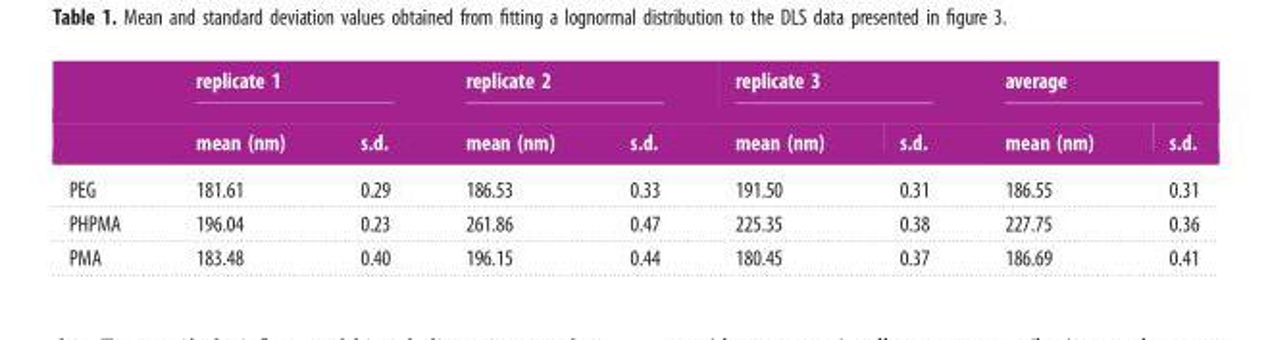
<table><thead><tr><td rowspan="2"></td><td colspan="2">replicate 1</td><td colspan="2">replicate 2</td><td colspan="2">replicate 3</td><td colspan="2">average</td></tr><tr><td>mean (nm)</td><td>s.d.</td><td>mean (nm)</td><td>s.d.</td><td>mean (nm)</td><td>s.d.</td><td>mean (nm)</td><td>s.d.</td></tr></thead><tbody><tr><td>PEG</td><td>181.61</td><td>0.29</td><td>186.53</td><td>0.33</td><td>191.50</td><td>0.31</td><td>186.55</td><td>0.31</td></tr><tr><td>PHPMA</td><td>196.04</td><td>0.23</td><td>261.86</td><td>0.47</td><td>225.35</td><td>0.38</td><td>227.75</td><td>0.36</td></tr><tr><td>PMA</td><td>183.48</td><td>0.40</td><td>196.15</td><td>0.44</td><td>180.45</td><td>0.37</td><td>186.69</td><td>0.41</td></tr></tbody></table>